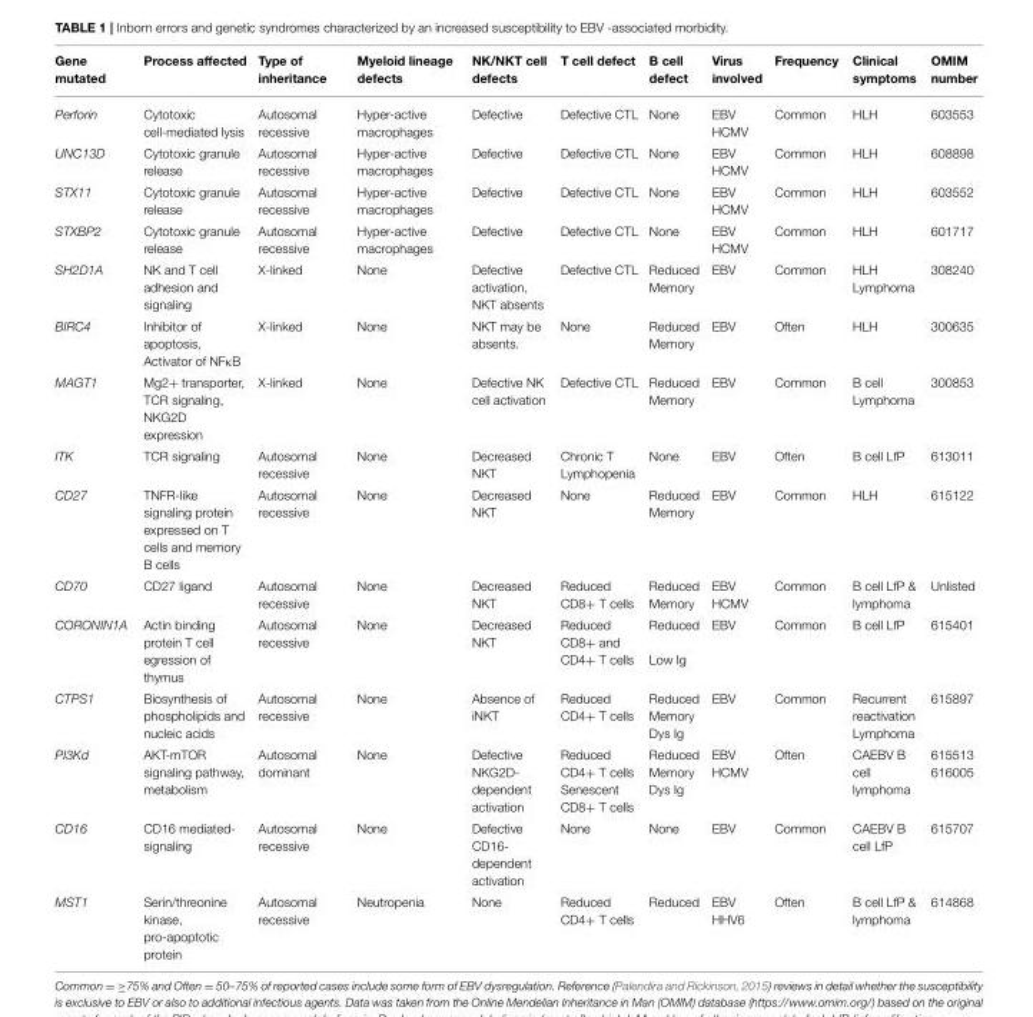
<table><thead><tr><td>Gene mutated</td><td>Process affected</td><td>Type of inheritance</td><td>Myeloid lineage defects</td><td>NK/NKT cell defects</td><td>T cell defect</td><td>B cell defect</td><td>Virus involved</td><td>Frequency</td><td>Clinical symptoms</td><td>OMIM number</td></tr></thead><tbody><tr><td>Perforin</td><td>Cytotoxic cell-mediated lysis</td><td>Autosomal recessive</td><td>Hyper-active macrophages</td><td>Defective</td><td>Defective CTL</td><td>None</td><td>EBV HCMV</td><td>Common</td><td>HLH</td><td>603553</td></tr><tr><td>UNC13D</td><td>Cytotoxic granule release</td><td>Autosomal recessive</td><td>Hyper-active macrophages</td><td>Defective</td><td>Defective CTL</td><td>None</td><td>EBV HCMV</td><td>Common</td><td>HLH</td><td>608898</td></tr><tr><td>STX11</td><td>Cytotoxic granule release</td><td>Autosomal recessive</td><td>Hyper-active macrophages</td><td>Defective</td><td>Defective CTL</td><td>None</td><td>EBV HCMV</td><td>Common</td><td>HLH</td><td>603552</td></tr><tr><td>STXBP2</td><td>Cytotoxic granule release</td><td>Autosomal recessive</td><td>Hyper-active macrophages</td><td>Defective</td><td>Defective CTL</td><td>None</td><td>EBV HCMV</td><td>Common</td><td>HLH</td><td>601717</td></tr><tr><td>SH2D1A</td><td>NK and T cell adhesion and signaling</td><td>X-linked</td><td>None</td><td>Defective activation, NKT absents</td><td>Defective CTL</td><td>Reduced Memory</td><td>EBV</td><td>Common</td><td>HLH Lymphoma</td><td>308240</td></tr><tr><td>BIRC4</td><td>Inhibitor of apoptosis, Activator of NFκB</td><td>X-linked</td><td>None</td><td>NKT may be absents.</td><td>None</td><td>Reduced Memory</td><td>EBV</td><td>Often</td><td>HLH</td><td>300635</td></tr><tr><td>MAGT1</td><td>Mg2+ transporter, TCR signaling, NKG2D expression</td><td>X-linked</td><td>None</td><td>Defective NK cell activation</td><td>Defective CTL</td><td>Reduced Memory</td><td>EBV</td><td>Common</td><td>B cell Lymphoma</td><td>300853</td></tr><tr><td>ITK</td><td>TCR signaling</td><td>Autosomal recessive</td><td>None</td><td>Decreased NKT</td><td>Chronic T Lymphopenia</td><td>None</td><td>EBV</td><td>Often</td><td>B cell LfP</td><td>613011</td></tr><tr><td>CD27</td><td>TNFR-like signaling protein expressed on T cells and memory B cells</td><td>Autosomal recessive</td><td>None</td><td>Decreased NKT</td><td>None</td><td>Reduced Memory</td><td>EBV</td><td>Common</td><td>HLH</td><td>615122</td></tr><tr><td>CD70</td><td>CD27 ligand</td><td>Autosomal recessive</td><td>None</td><td>Decreased NKT</td><td>Reduced CD8+ T cells</td><td>Reduced Memory</td><td>EBV HCMV</td><td>Common</td><td>B cell LfP &amp; lymphoma</td><td>Unlisted</td></tr><tr><td>CORONIN1A</td><td>Actin binding protein T cell egression of thymus</td><td>Autosomal recessive</td><td>None</td><td>Decreased NKT</td><td>Reduced CD8+ and CD4+ T cells</td><td>Reduced Low Ig</td><td>EBV</td><td>Common</td><td>B cell LfP</td><td>615401</td></tr><tr><td>CTPS1</td><td>Biosynthesis of phospholipids and nucleic acids</td><td>Autosomal recessive</td><td>None</td><td>Absence of iNKT</td><td>Reduced CD4+ T cells</td><td>Reduced Memory Dys Ig</td><td>EBV</td><td>Common</td><td>Recurrent reactivation Lymphoma</td><td>615897</td></tr><tr><td>PI3Kd</td><td>AKT-mTOR signaling pathway, metabolism</td><td>Autosomal dominant</td><td>None</td><td>Defective NKG2D- dependent activation</td><td>Reduced CD4+ T cells Senescent CD8+ T cells</td><td>Reduced Memory Dys Ig</td><td>EBV HCMV</td><td>Often</td><td>CAEBV B cell lymphoma</td><td>615513 616005</td></tr><tr><td>CD16</td><td>CD16 mediated- signaling</td><td>Autosomal recessive</td><td>None</td><td>Defective CD16- dependent activation</td><td>None</td><td>None</td><td>EBV</td><td>Common</td><td>CAEBV B cell LfP</td><td>615707</td></tr><tr><td>MST1</td><td>Serin/threonine kinase, pro-apoptotic protein</td><td>Autosomal recessive</td><td>Neutropenia</td><td>None</td><td>Reduced CD4+ T cells</td><td>Reduced</td><td>EBV HHV6</td><td>Often</td><td>B cell LfP &amp; lymphoma</td><td>614868</td></tr></tbody></table>